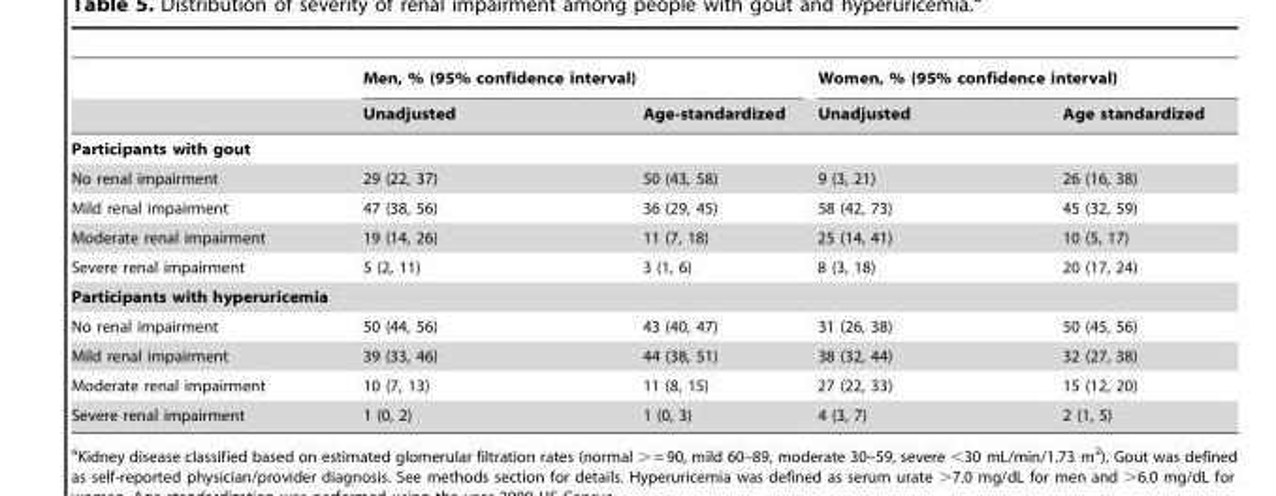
<table><thead><tr><td rowspan="2"></td><td colspan="2">Men, % (95% confidence interval)</td><td colspan="2">Women, % (95% confidence interval)</td></tr><tr><td>Unadjusted</td><td>Age-standardized</td><td>Unadjusted</td><td>Age standardized</td></tr></thead><tbody><tr><td colspan="5">Participants with gout</td></tr><tr><td>No renal impairment</td><td>29 (22, 37)</td><td>50 (43, 58)</td><td>9 (3, 21)</td><td>26 (16, 38)</td></tr><tr><td>Mild renal impairment</td><td>47 (38, 56)</td><td>36 (29, 45)</td><td>58 (42, 73)</td><td>45 (32, 59)</td></tr><tr><td>Moderate renal impairment</td><td>19 (14, 26)</td><td>11 (7, 18)</td><td>25 (14, 41)</td><td>10 (5, 17)</td></tr><tr><td>Severe renal impairment</td><td>5 (2, 11)</td><td>3 (1, 6)</td><td>8 (3, 18)</td><td>20 (17, 24)</td></tr><tr><td colspan="5">Participants with hyperuricemia</td></tr><tr><td>No renal impairment</td><td>50 (44, 56)</td><td>43 (40, 47)</td><td>31 (26, 38)</td><td>50 (45, 56)</td></tr><tr><td>Mild renal impairment</td><td>39 (33, 46)</td><td>44 (38, 51)</td><td>38 (32, 44)</td><td>32 (27, 38)</td></tr><tr><td>Moderate renal impairment</td><td>10 (7, 13)</td><td>11 (8, 15)</td><td>27 (22, 33)</td><td>15 (12, 20)</td></tr><tr><td>Severe renal impairment</td><td>1 (0, 2)</td><td>1 (0, 3)</td><td>4 (3, 7)</td><td>2 (1, 5)</td></tr></tbody></table>